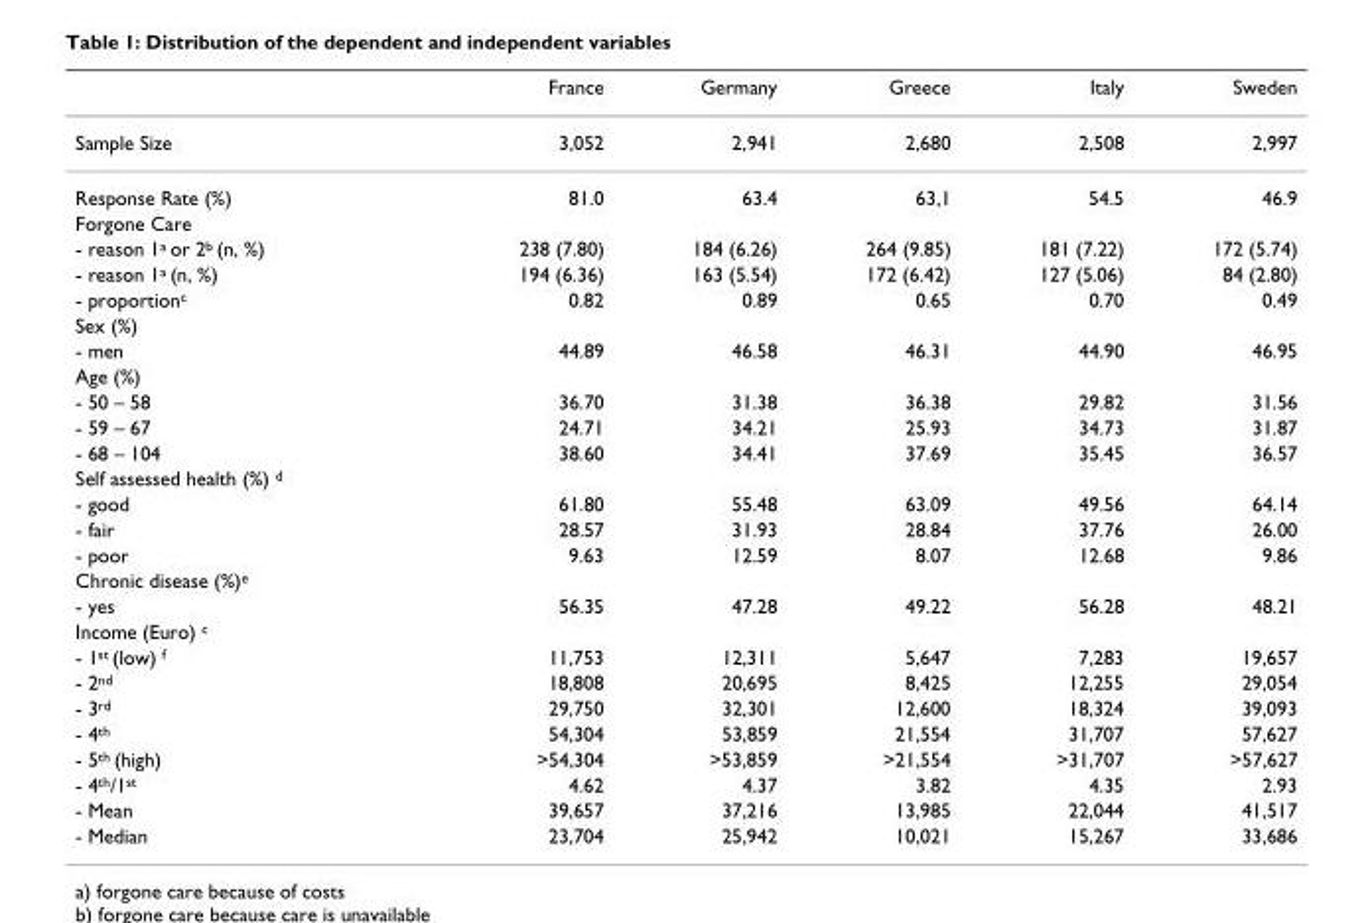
<table><thead><tr><td></td><td>France</td><td>Germany</td><td>Greece</td><td>Italy</td><td>Sweden</td></tr></thead><tbody><tr><td>Sample Size</td><td>3,052</td><td>2,941</td><td>2,680</td><td>2,508</td><td>2,997</td></tr><tr><td>Response Rate (%)</td><td>81.0</td><td>63.4</td><td>63,1</td><td>54.5</td><td>46.9</td></tr><tr><td colspan="6">Forgone Care</td></tr><tr><td>- reason 1<sup>a</sup> or 2<sup>b</sup> (n, %)</td><td>238 (7.80)</td><td>184 (6.26)</td><td>264 (9.85)</td><td>181 (7.22)</td><td>172 (5.74)</td></tr><tr><td>- reason 1<sup>a</sup> (n, %)</td><td>194 (6.36)</td><td>163 (5.54)</td><td>172 (6.42)</td><td>127 (5.06)</td><td>84 (2.80)</td></tr><tr><td>- proportion<sup>c</sup></td><td>0.82</td><td>0.89</td><td>0.65</td><td>0.70</td><td>0.49</td></tr><tr><td colspan="6">Sex (%)</td></tr><tr><td>- men</td><td>44.89</td><td>46.58</td><td>46.31</td><td>44.90</td><td>46.95</td></tr><tr><td colspan="6">Age (%)</td></tr><tr><td>- 50 – 58</td><td>36.70</td><td>31.38</td><td>36.38</td><td>29.82</td><td>31.56</td></tr><tr><td>- 59 – 67</td><td>24.71</td><td>34.21</td><td>25.93</td><td>34.73</td><td>31.87</td></tr><tr><td>- 68 – 104</td><td>38.60</td><td>34.41</td><td>37.69</td><td>35.45</td><td>36.57</td></tr><tr><td colspan="6">Self assessed health (%) <sup>d</sup></td></tr><tr><td>- good</td><td>61.80</td><td>55.48</td><td>63.09</td><td>49.56</td><td>64.14</td></tr><tr><td>- fair</td><td>28.57</td><td>31.93</td><td>28.84</td><td>37.76</td><td>26.00</td></tr><tr><td>- poor</td><td>9.63</td><td>12.59</td><td>8.07</td><td>12.68</td><td>9.86</td></tr><tr><td colspan="6">Chronic disease (%)<sup>e</sup></td></tr><tr><td>- yes</td><td>56.35</td><td>47.28</td><td>49.22</td><td>56.28</td><td>48.21</td></tr><tr><td colspan="6">Income (Euro) <sup>c</sup></td></tr><tr><td>- 1<sup>st</sup> (low) <sup>f</sup></td><td>11,753</td><td>12,311</td><td>5,647</td><td>7,283</td><td>19,657</td></tr><tr><td>- 2<sup>nd</sup></td><td>18,808</td><td>20,695</td><td>8,425</td><td>12,255</td><td>29,054</td></tr><tr><td>- 3<sup>rd</sup></td><td>29,750</td><td>32,301</td><td>12,600</td><td>18,324</td><td>39,093</td></tr><tr><td>- 4<sup>th</sup></td><td>54,304</td><td>53,859</td><td>21,554</td><td>31,707</td><td>57,627</td></tr><tr><td>- 5<sup>th</sup> (high)</td><td>&gt;54,304</td><td>&gt;53,859</td><td>&gt;21,554</td><td>&gt;31,707</td><td>&gt;57,627</td></tr><tr><td>- 4<sup>th</sup>/1<sup>st</sup></td><td>4.62</td><td>4.37</td><td>3.82</td><td>4.35</td><td>2.93</td></tr><tr><td>- Mean</td><td>39,657</td><td>37,216</td><td>13,985</td><td>22,044</td><td>41,517</td></tr><tr><td>- Median</td><td>23,704</td><td>25,942</td><td>10,021</td><td>15,267</td><td>33,686</td></tr></tbody></table>